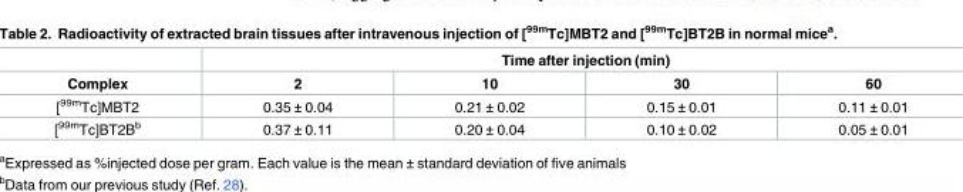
<table><thead><tr><td rowspan="2">Complex</td><td colspan="4">Time after injection (min)</td></tr><tr><td>2</td><td>10</td><td>30</td><td>60</td></tr></thead><tbody><tr><td>[<sup>99m</sup>Tc]MBT2</td><td>0.35 ± 0.04</td><td>0.21 ± 0.02</td><td>0.15 ± 0.01</td><td>0.11 ± 0.01</td></tr><tr><td>[<sup>99m</sup>Tc]BT2B<sup>b</sup></td><td>0.37 ± 0.11</td><td>0.20 ± 0.04</td><td>0.10 ± 0.02</td><td>0.05 ± 0.01</td></tr></tbody></table>